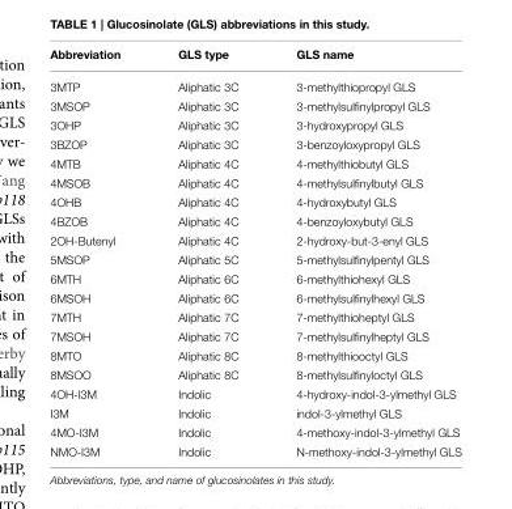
<table><thead><tr><td>Abbreviation</td><td>GLS type</td><td>GLS name</td></tr></thead><tbody><tr><td>3MTP</td><td>Aliphatic 3C</td><td>3-methylthiopropyl GLS</td></tr><tr><td>3MSOP</td><td>Aliphatic 3C</td><td>3-methylsulfinylpropyl GLS</td></tr><tr><td>3OHP</td><td>Aliphatic 3C</td><td>3-hydroxypropyl GLS</td></tr><tr><td>3BZOP</td><td>Aliphatic 3C</td><td>3-benzoyloxypropyl GLS</td></tr><tr><td>4MTB</td><td>Aliphatic 4C</td><td>4-methylthiobutyl GLS</td></tr><tr><td>4MSOB</td><td>Aliphatic 4C</td><td>4-methylsulfinylbutyl GLS</td></tr><tr><td>4OHB</td><td>Aliphatic 4C</td><td>4-hydroxybutyl GLS</td></tr><tr><td>4BZOB</td><td>Aliphatic 4C</td><td>4-benzoyloxybutyl GLS</td></tr><tr><td>2OH-Butenyl</td><td>Aliphatic 4C</td><td>2-hydroxy-but-3-enyl GLS</td></tr><tr><td>5MSOP</td><td>Aliphatic 5C</td><td>5-methylsulfinylpentyl GLS</td></tr><tr><td>6MTH</td><td>Aliphatic 6C</td><td>6-methylthiohexyl GLS</td></tr><tr><td>6MSOH</td><td>Aliphatic 6C</td><td>6-methylsulfinylhexyl GLS</td></tr><tr><td>7MTH</td><td>Aliphatic 7C</td><td>7-methylthioheptyl GLS</td></tr><tr><td>7MSOH</td><td>Aliphatic 7C</td><td>7-methylsulfinylheptyl GLS</td></tr><tr><td>8MTO</td><td>Aliphatic 8C</td><td>8-methylthiooctyl GLS</td></tr><tr><td>8MSOO</td><td>Aliphatic 8C</td><td>8-methylsulfinyloctyl GLS</td></tr><tr><td>4OH-I3M</td><td>Indolic</td><td>4-hydroxy-indol-3-ylmethyl GLS</td></tr><tr><td>I3M</td><td>Indolic</td><td>indol-3-ylmethyl GLS</td></tr><tr><td>4MO-I3M</td><td>Indolic</td><td>4-methoxy-indol-3-ylmethyl GLS</td></tr><tr><td>NMO-I3M</td><td>Indolic</td><td>N-methoxy-indol-3-ylmethyl GLS</td></tr></tbody></table>